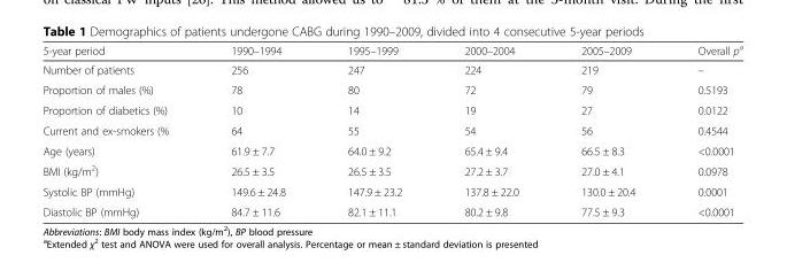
<table><thead><tr><td>5-year period</td><td>1990–1994</td><td>1995–1999</td><td>2000–2004</td><td>2005–2009</td><td>Overall p<sup>a</sup></td></tr></thead><tbody><tr><td>Number of patients</td><td>256</td><td>247</td><td>224</td><td>219</td><td>–</td></tr><tr><td>Proportion of males (%)</td><td>78</td><td>80</td><td>72</td><td>79</td><td>0.5193</td></tr><tr><td>Proportion of diabetics (%)</td><td>10</td><td>14</td><td>19</td><td>27</td><td>0.0122</td></tr><tr><td>Current and ex-smokers (%</td><td>64</td><td>55</td><td>54</td><td>56</td><td>0.4544</td></tr><tr><td>Age (years)</td><td>61.9 ± 7.7</td><td>64.0 ± 9.2</td><td>65.4 ± 9.4</td><td>66.5 ± 8.3</td><td>&lt;0.0001</td></tr><tr><td>BMI (kg/m<sup>2</sup>)</td><td>26.5 ± 3.5</td><td>26.5 ± 3.5</td><td>27.2 ± 3.7</td><td>27.0 ± 4.1</td><td>0.0978</td></tr><tr><td>Systolic BP (mmHg)</td><td>149.6 ± 24.8</td><td>147.9 ± 23.2</td><td>137.8 ± 22.0</td><td>130.0 ± 20.4</td><td>0.0001</td></tr><tr><td>Diastolic BP (mmHg)</td><td>84.7 ± 11.6</td><td>82.1 ± 11.1</td><td>80.2 ± 9.8</td><td>77.5 ± 9.3</td><td>&lt;0.0001</td></tr></tbody></table>